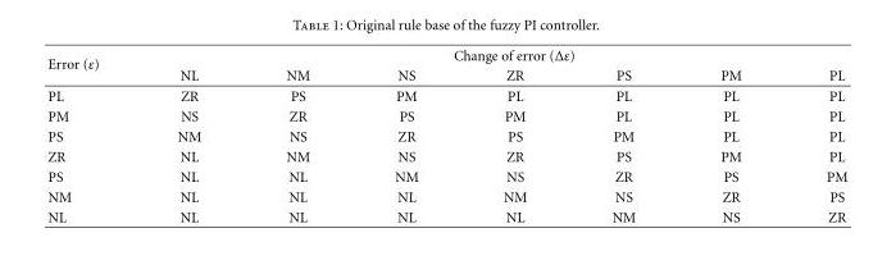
<table><thead><tr><td rowspan="2">Error (ε)</td><td colspan="7">Change of error (Δε)</td></tr><tr><td>NL</td><td>NM</td><td>NS</td><td>ZR</td><td>PS</td><td>PM</td><td>PL</td></tr></thead><tbody><tr><td>PL</td><td>ZR</td><td>PS</td><td>PM</td><td>PL</td><td>PL</td><td>PL</td><td>PL</td></tr><tr><td>PM</td><td>NS</td><td>ZR</td><td>PS</td><td>PM</td><td>PL</td><td>PL</td><td>PL</td></tr><tr><td>PS</td><td>NM</td><td>NS</td><td>ZR</td><td>PS</td><td>PM</td><td>PL</td><td>PL</td></tr><tr><td>ZR</td><td>NL</td><td>NM</td><td>NS</td><td>ZR</td><td>PS</td><td>PM</td><td>PL</td></tr><tr><td>PS</td><td>NL</td><td>NL</td><td>NM</td><td>NS</td><td>ZR</td><td>PS</td><td>PM</td></tr><tr><td>NM</td><td>NL</td><td>NL</td><td>NL</td><td>NM</td><td>NS</td><td>ZR</td><td>PS</td></tr><tr><td>NL</td><td>NL</td><td>NL</td><td>NL</td><td>NL</td><td>NM</td><td>NS</td><td>ZR</td></tr></tbody></table>